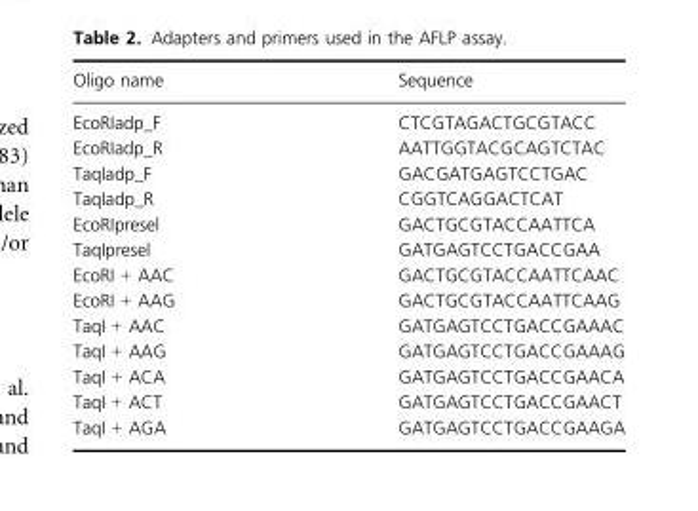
<table><thead><tr><td>Oligo name</td><td>Sequence</td></tr></thead><tbody><tr><td>EcoRIadp_F</td><td>CTCGTAGACTGCGTACC</td></tr><tr><td>EcoRIadp_R</td><td>AATTGGTACGCAGTCTAC</td></tr><tr><td>TaqIadp_F</td><td>GACGATGAGTCCTGAC</td></tr><tr><td>TaqIadp_R</td><td>CGGTCAGGACTCAT</td></tr><tr><td>EcoRIpresel</td><td>GACTGCGTACCAATTCA</td></tr><tr><td>TaqIpresel</td><td>GATGAGTCCTGACCGAA</td></tr><tr><td>EcoRI + AAC</td><td>GACTGCGTACCAATTCAAC</td></tr><tr><td>EcoRI + AAG</td><td>GACTGCGTACCAATTCAAG</td></tr><tr><td>TaqI + AAC</td><td>GATGAGTCCTGACCGAAAC</td></tr><tr><td>TaqI + AAG</td><td>GATGAGTCCTGACCGAAAG</td></tr><tr><td>TaqI + ACA</td><td>GATGAGTCCTGACCGAACA</td></tr><tr><td>TaqI + ACT</td><td>GATGAGTCCTGACCGAACT</td></tr><tr><td>TaqI + AGA</td><td>GATGAGTCCTGACCGAAGA</td></tr></tbody></table>